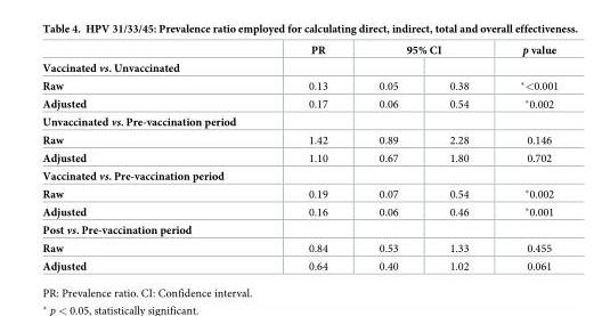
<table><thead><tr><td rowspan="2">Vaccinated vs. Unvaccinated</td><td rowspan="2">PR</td><td colspan="2">95% CI</td><td rowspan="2">p value</td></tr><tr><td></td><td></td></tr></thead><tbody><tr><td>Raw</td><td>0.13</td><td>0.05</td><td>0.38</td><td>*&lt;0.001</td></tr><tr><td>Adjusted</td><td>0.17</td><td>0.06</td><td>0.54</td><td>*0.002</td></tr><tr><td colspan="5">Unvaccinated vs. Pre-vaccination period</td></tr><tr><td>Raw</td><td>1.42</td><td>0.89</td><td>2.28</td><td>0.146</td></tr><tr><td>Adjusted</td><td>1.10</td><td>0.67</td><td>1.80</td><td>0.702</td></tr><tr><td colspan="5">Vaccinated vs. Pre-vaccination period</td></tr><tr><td>Raw</td><td>0.19</td><td>0.07</td><td>0.54</td><td>*0.002</td></tr><tr><td>Adjusted</td><td>0.16</td><td>0.06</td><td>0.46</td><td>*0.001</td></tr><tr><td colspan="5">Post vs. Pre-vaccination period</td></tr><tr><td>Raw</td><td>0.84</td><td>0.53</td><td>1.33</td><td>0.455</td></tr><tr><td>Adjusted</td><td>0.64</td><td>0.40</td><td>1.02</td><td>0.061</td></tr></tbody></table>